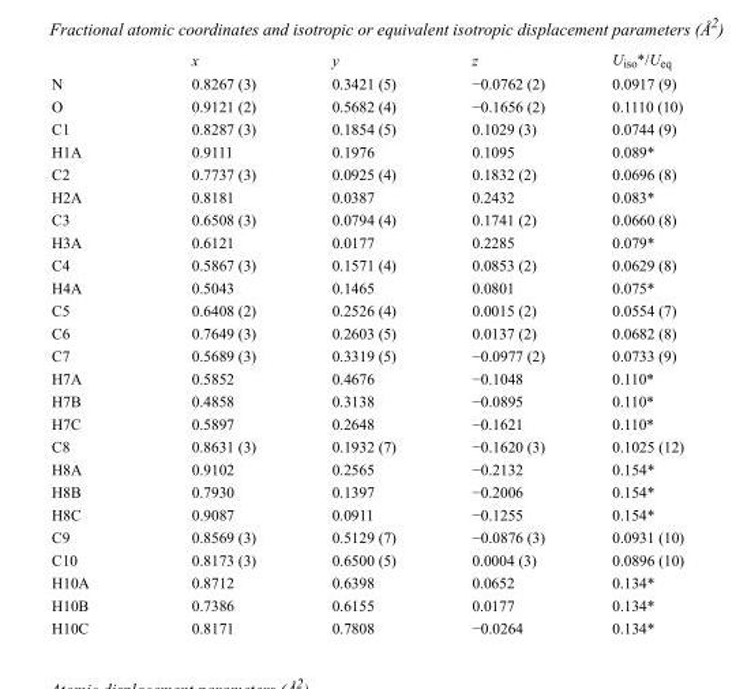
<table><thead><tr><td></td><td>x</td><td>y</td><td>z</td><td>U<sub>iso</sub>*/U<sub>eq</sub></td></tr></thead><tbody><tr><td>N</td><td>0.8267 (3)</td><td>0.3421 (5)</td><td>−0.0762 (2)</td><td>0.0917 (9)</td></tr><tr><td>O</td><td>0.9121 (2)</td><td>0.5682 (4)</td><td>−0.1656 (2)</td><td>0.1110 (10)</td></tr><tr><td>C1</td><td>0.8287 (3)</td><td>0.1854 (5)</td><td>0.1029 (3)</td><td>0.0744 (9)</td></tr><tr><td>H1A</td><td>0.9111</td><td>0.1976</td><td>0.1095</td><td>0.089*</td></tr><tr><td>C2</td><td>0.7737 (3)</td><td>0.0925 (4)</td><td>0.1832 (2)</td><td>0.0696 (8)</td></tr><tr><td>H2A</td><td>0.8181</td><td>0.0387</td><td>0.2432</td><td>0.083*</td></tr><tr><td>C3</td><td>0.6508 (3)</td><td>0.0794 (4)</td><td>0.1741 (2)</td><td>0.0660 (8)</td></tr><tr><td>H3A</td><td>0.6121</td><td>0.0177</td><td>0.2285</td><td>0.079*</td></tr><tr><td>C4</td><td>0.5867 (3)</td><td>0.1571 (4)</td><td>0.0853 (2)</td><td>0.0629 (8)</td></tr><tr><td>H4A</td><td>0.5043</td><td>0.1465</td><td>0.0801</td><td>0.075*</td></tr><tr><td>C5</td><td>0.6408 (2)</td><td>0.2526 (4)</td><td>0.0015 (2)</td><td>0.0554 (7)</td></tr><tr><td>C6</td><td>0.7649 (3)</td><td>0.2603 (5)</td><td>0.0137 (2)</td><td>0.0682 (8)</td></tr><tr><td>C7</td><td>0.5689 (3)</td><td>0.3319 (5)</td><td>−0.0977 (2)</td><td>0.0733 (9)</td></tr><tr><td>H7A</td><td>0.5852</td><td>0.4676</td><td>−0.1048</td><td>0.110*</td></tr><tr><td>H7B</td><td>0.4858</td><td>0.3138</td><td>−0.0895</td><td>0.110*</td></tr><tr><td>H7C</td><td>0.5897</td><td>0.2648</td><td>−0.1621</td><td>0.110*</td></tr><tr><td>C8</td><td>0.8631 (3)</td><td>0.1932 (7)</td><td>−0.1620 (3)</td><td>0.1025 (12)</td></tr><tr><td>H8A</td><td>0.9102</td><td>0.2565</td><td>−0.2132</td><td>0.154*</td></tr><tr><td>H8B</td><td>0.7930</td><td>0.1397</td><td>−0.2006</td><td>0.154*</td></tr><tr><td>H8C</td><td>0.9087</td><td>0.0911</td><td>−0.1255</td><td>0.154*</td></tr><tr><td>C9</td><td>0.8569 (3)</td><td>0.5129 (7)</td><td>−0.0876 (3)</td><td>0.0931 (10)</td></tr><tr><td>C10</td><td>0.8173 (3)</td><td>0.6500 (5)</td><td>0.0004 (3)</td><td>0.0896 (10)</td></tr><tr><td>H10A</td><td>0.8712</td><td>0.6398</td><td>0.0652</td><td>0.134*</td></tr><tr><td>H10B</td><td>0.7386</td><td>0.6155</td><td>0.0177</td><td>0.134*</td></tr><tr><td>H10C</td><td>0.8171</td><td>0.7808</td><td>−0.0264</td><td>0.134*</td></tr></tbody></table>